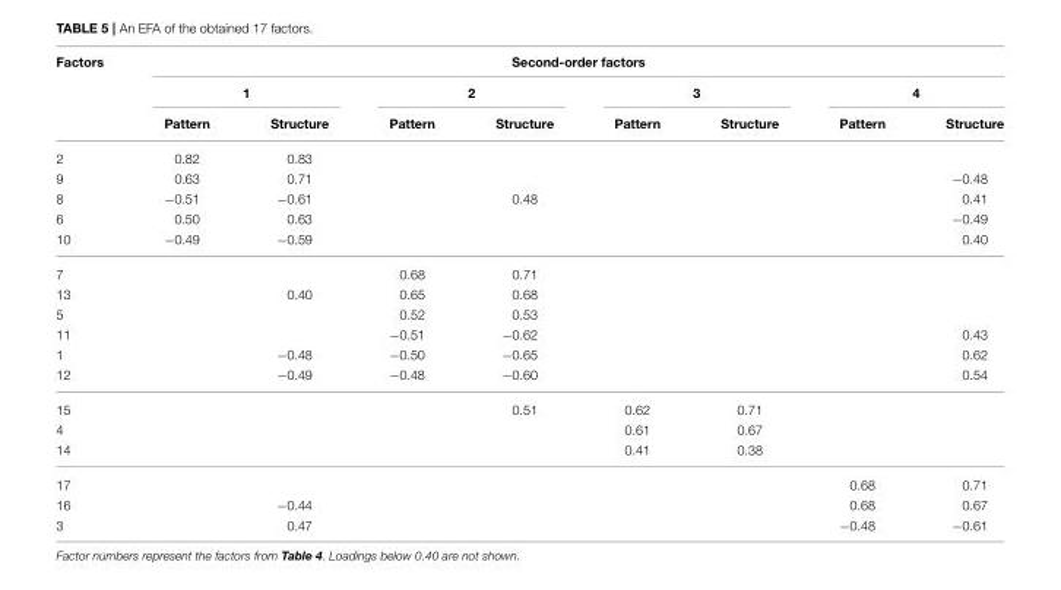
<table><thead><tr><td rowspan="3">Factors</td><td colspan="8">Second-order factors</td></tr><tr><td colspan="2">1</td><td colspan="2">2</td><td colspan="2">3</td><td colspan="2">4</td></tr><tr><td>Pattern</td><td>Structure</td><td>Pattern</td><td>Structure</td><td>Pattern</td><td>Structure</td><td>Pattern</td><td>Structure</td></tr></thead><tbody><tr><td>2</td><td>0.82</td><td>0.83</td><td></td><td></td><td></td><td></td><td></td><td></td></tr><tr><td>9</td><td>0.63</td><td>0.71</td><td></td><td></td><td></td><td></td><td></td><td>−0.48</td></tr><tr><td>8</td><td>−0.51</td><td>−0.61</td><td></td><td>0.48</td><td></td><td></td><td></td><td>0.41</td></tr><tr><td>6</td><td>0.50</td><td>0.63</td><td></td><td></td><td></td><td></td><td></td><td>−0.49</td></tr><tr><td>10</td><td>−0.49</td><td>−0.59</td><td></td><td></td><td></td><td></td><td></td><td>0.40</td></tr><tr><td>7</td><td></td><td></td><td>0.68</td><td>0.71</td><td></td><td></td><td></td><td></td></tr><tr><td>13</td><td></td><td>0.40</td><td>0.65</td><td>0.68</td><td></td><td></td><td></td><td></td></tr><tr><td>5</td><td></td><td></td><td>0.52</td><td>0.53</td><td></td><td></td><td></td><td></td></tr><tr><td>11</td><td></td><td></td><td>−0.51</td><td>−0.62</td><td></td><td></td><td></td><td>0.43</td></tr><tr><td>1</td><td></td><td>−0.48</td><td>−0.50</td><td>−0.65</td><td></td><td></td><td></td><td>0.62</td></tr><tr><td>12</td><td></td><td>−0.49</td><td>−0.48</td><td>−0.60</td><td></td><td></td><td></td><td>0.54</td></tr><tr><td>15</td><td></td><td></td><td></td><td>0.51</td><td>0.62</td><td>0.71</td><td></td><td></td></tr><tr><td>4</td><td></td><td></td><td></td><td></td><td>0.61</td><td>0.67</td><td></td><td></td></tr><tr><td>14</td><td></td><td></td><td></td><td></td><td>0.41</td><td>0.38</td><td></td><td></td></tr><tr><td>17</td><td></td><td></td><td></td><td></td><td></td><td></td><td>0.68</td><td>0.71</td></tr><tr><td>16</td><td></td><td>−0.44</td><td></td><td></td><td></td><td></td><td>0.68</td><td>0.67</td></tr><tr><td>3</td><td></td><td>0.47</td><td></td><td></td><td></td><td></td><td>−0.48</td><td>−0.61</td></tr></tbody></table>